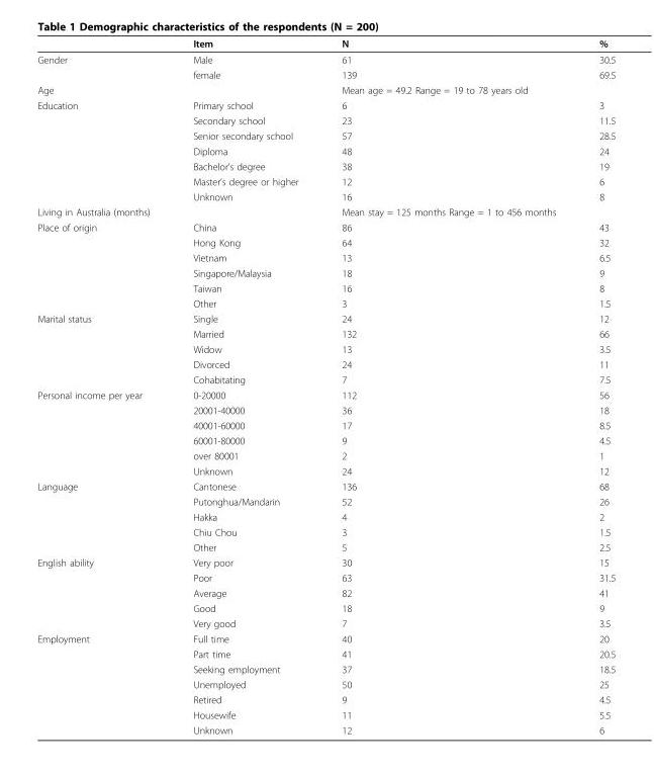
<table><thead><tr><td></td><td>Item</td><td>N</td><td>%</td></tr></thead><tbody><tr><td rowspan="2">Gender</td><td>Male</td><td>61</td><td>30.5</td></tr><tr><td>female</td><td>139</td><td>69.5</td></tr><tr><td>Age</td><td></td><td>Mean age = 49.2 Range = 19 to 78 years old</td><td></td></tr><tr><td rowspan="7">Education</td><td>Primary school</td><td>6</td><td>3</td></tr><tr><td>Secondary school</td><td>23</td><td>11.5</td></tr><tr><td>Senior secondary school</td><td>57</td><td>28.5</td></tr><tr><td>Diploma</td><td>48</td><td>24</td></tr><tr><td>Bachelor’s degree</td><td>38</td><td>19</td></tr><tr><td>Master’s degree or higher</td><td>12</td><td>6</td></tr><tr><td>Unknown</td><td>16</td><td>8</td></tr><tr><td>Living in Australia (months)</td><td></td><td>Mean stay = 125 months Range = 1 to 456 months</td><td></td></tr><tr><td rowspan="6">Place of origin</td><td>China</td><td>86</td><td>43</td></tr><tr><td>Hong Kong</td><td>64</td><td>32</td></tr><tr><td>Vietnam</td><td>13</td><td>6.5</td></tr><tr><td>Singapore/Malaysia</td><td>18</td><td>9</td></tr><tr><td>Taiwan</td><td>16</td><td>8</td></tr><tr><td>Other</td><td>3</td><td>1.5</td></tr><tr><td rowspan="5">Marital status</td><td>Single</td><td>24</td><td>12</td></tr><tr><td>Married</td><td>132</td><td>66</td></tr><tr><td>Widow</td><td>13</td><td>3.5</td></tr><tr><td>Divorced</td><td>24</td><td>11</td></tr><tr><td>Cohabitating</td><td>7</td><td>7.5</td></tr><tr><td rowspan="6">Personal income per year</td><td>0-20000</td><td>112</td><td>56</td></tr><tr><td>20001-40000</td><td>36</td><td>18</td></tr><tr><td>40001-60000</td><td>17</td><td>8.5</td></tr><tr><td>60001-80000</td><td>9</td><td>4.5</td></tr><tr><td>over 80001</td><td>2</td><td>1</td></tr><tr><td>Unknown</td><td>24</td><td>12</td></tr><tr><td rowspan="5">Language</td><td>Cantonese</td><td>136</td><td>68</td></tr><tr><td>Putonghua/Mandarin</td><td>52</td><td>26</td></tr><tr><td>Hakka</td><td>4</td><td>2</td></tr><tr><td>Chiu Chou</td><td>3</td><td>1.5</td></tr><tr><td>Other</td><td>5</td><td>2.5</td></tr><tr><td rowspan="5">English ability</td><td>Very poor</td><td>30</td><td>15</td></tr><tr><td>Poor</td><td>63</td><td>31.5</td></tr><tr><td>Average</td><td>82</td><td>41</td></tr><tr><td>Good</td><td>18</td><td>9</td></tr><tr><td>Very good</td><td>7</td><td>3.5</td></tr><tr><td rowspan="7">Employment</td><td>Full time</td><td>40</td><td>20</td></tr><tr><td>Part time</td><td>41</td><td>20.5</td></tr><tr><td>Seeking employment</td><td>37</td><td>18.5</td></tr><tr><td>Unemployed</td><td>50</td><td>25</td></tr><tr><td>Retired</td><td>9</td><td>4.5</td></tr><tr><td>Housewife</td><td>11</td><td>5.5</td></tr><tr><td>Unknown</td><td>12</td><td>6</td></tr></tbody></table>